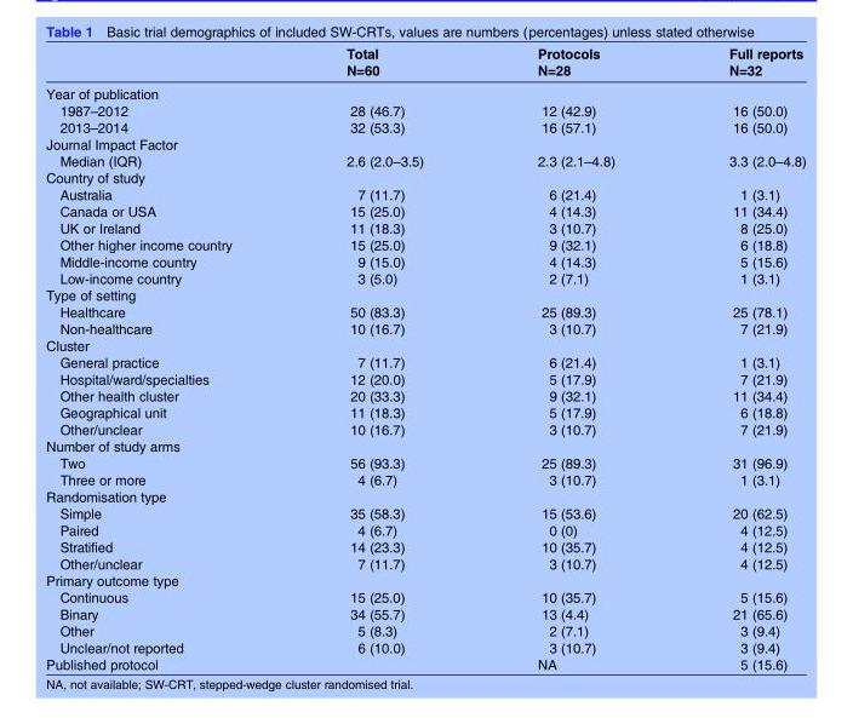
<table><thead><tr><td></td><td>Total N=60</td><td>Protocols N=28</td><td>Full reports N=32</td></tr></thead><tbody><tr><td colspan="4">Year of publication</td></tr><tr><td>1987–2012</td><td>28 (46.7)</td><td>12 (42.9)</td><td>16 (50.0)</td></tr><tr><td>2013–2014</td><td>32 (53.3)</td><td>16 (57.1)</td><td>16 (50.0)</td></tr><tr><td colspan="4">Journal Impact Factor</td></tr><tr><td>Median (IQR)</td><td>2.6 (2.0–3.5)</td><td>2.3 (2.1–4.8)</td><td>3.3 (2.0–4.8)</td></tr><tr><td colspan="4">Country of study</td></tr><tr><td>Australia</td><td>7 (11.7)</td><td>6 (21.4)</td><td>1 (3.1)</td></tr><tr><td>Canada or USA</td><td>15 (25.0)</td><td>4 (14.3)</td><td>11 (34.4)</td></tr><tr><td>UK or Ireland</td><td>11 (18.3)</td><td>3 (10.7)</td><td>8 (25.0)</td></tr><tr><td>Other higher income country</td><td>15 (25.0)</td><td>9 (32.1)</td><td>6 (18.8)</td></tr><tr><td>Middle-income country</td><td>9 (15.0)</td><td>4 (14.3)</td><td>5 (15.6)</td></tr><tr><td>Low-income country</td><td>3 (5.0)</td><td>2 (7.1)</td><td>1 (3.1)</td></tr><tr><td colspan="4">Type of setting</td></tr><tr><td>Healthcare</td><td>50 (83.3)</td><td>25 (89.3)</td><td>25 (78.1)</td></tr><tr><td>Non-healthcare</td><td>10 (16.7)</td><td>3 (10.7)</td><td>7 (21.9)</td></tr><tr><td colspan="4">Cluster</td></tr><tr><td>General practice</td><td>7 (11.7)</td><td>6 (21.4)</td><td>1 (3.1)</td></tr><tr><td>Hospital/ward/specialties</td><td>12 (20.0)</td><td>5 (17.9)</td><td>7 (21.9)</td></tr><tr><td>Other health cluster</td><td>20 (33.3)</td><td>9 (32.1)</td><td>11 (34.4)</td></tr><tr><td>Geographical unit</td><td>11 (18.3)</td><td>5 (17.9)</td><td>6 (18.8)</td></tr><tr><td>Other/unclear</td><td>10 (16.7)</td><td>3 (10.7)</td><td>7 (21.9)</td></tr><tr><td colspan="4">Number of study arms</td></tr><tr><td>Two</td><td>56 (93.3)</td><td>25 (89.3)</td><td>31 (96.9)</td></tr><tr><td>Three or more</td><td>4 (6.7)</td><td>3 (10.7)</td><td>1 (3.1)</td></tr><tr><td colspan="4">Randomisation type</td></tr><tr><td>Simple</td><td>35 (58.3)</td><td>15 (53.6)</td><td>20 (62.5)</td></tr><tr><td>Paired</td><td>4 (6.7)</td><td>0 (0)</td><td>4 (12.5)</td></tr><tr><td>Stratified</td><td>14 (23.3)</td><td>10 (35.7)</td><td>4 (12.5)</td></tr><tr><td>Other/unclear</td><td>7 (11.7)</td><td>3 (10.7)</td><td>4 (12.5)</td></tr><tr><td colspan="4">Primary outcome type</td></tr><tr><td>Continuous</td><td>15 (25.0)</td><td>10 (35.7)</td><td>5 (15.6)</td></tr><tr><td>Binary</td><td>34 (55.7)</td><td>13 (4.4)</td><td>21 (65.6)</td></tr><tr><td>Other</td><td>5 (8.3)</td><td>2 (7.1)</td><td>3 (9.4)</td></tr><tr><td>Unclear/not reported</td><td>6 (10.0)</td><td>3 (10.7)</td><td>3 (9.4)</td></tr><tr><td>Published protocol</td><td></td><td>NA</td><td>5 (15.6)</td></tr></tbody></table>